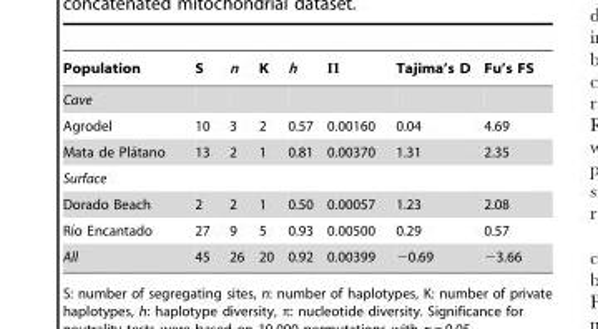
<table><thead><tr><td>Population</td><td>S</td><td>n</td><td>K</td><td>h</td><td>Π</td><td>Tajima’s D</td><td>Fu’s FS</td></tr></thead><tbody><tr><td colspan="8">Cave</td></tr><tr><td>Agrodel</td><td>10</td><td>3</td><td>2</td><td>0.57</td><td>0.00160</td><td>0.04</td><td>4.69</td></tr><tr><td>Mata de Pla´tano</td><td>13</td><td>2</td><td>1</td><td>0.81</td><td>0.00370</td><td>1.31</td><td>2.35</td></tr><tr><td colspan="8">Surface</td></tr><tr><td>Dorado Beach</td><td>2</td><td>2</td><td>1</td><td>0.50</td><td>0.00057</td><td>1.23</td><td>2.08</td></tr><tr><td>Rı´o Encantado</td><td>27</td><td>9</td><td>5</td><td>0.93</td><td>0.00500</td><td>0.29</td><td>0.57</td></tr><tr><td>All</td><td>45</td><td>26</td><td>20</td><td>0.92</td><td>0.00399</td><td>−0.69</td><td>−3.66</td></tr></tbody></table>